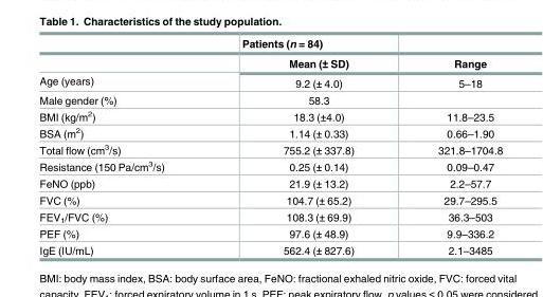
<table><thead><tr><td rowspan="2"></td><td rowspan="2">Patients (n = 84) Mean (± SD)</td><td rowspan="2">Range</td></tr><tr></tr></thead><tbody><tr><td>Age (years)</td><td>9.2 (± 4.0)</td><td>5–18</td></tr><tr><td>Male gender (%)</td><td>58.3</td><td></td></tr><tr><td>BMI (kg/m<sup>2</sup>)</td><td>18.3 (±4.0)</td><td>11.8–23.5</td></tr><tr><td>BSA (m<sup>2</sup>)</td><td>1.14 (± 0.33)</td><td>0.66–1.90</td></tr><tr><td>Total flow (cm<sup>3</sup>/s)</td><td>755.2 (± 337.8)</td><td>321.8–1704.8</td></tr><tr><td>Resistance (150 Pa/cm<sup>3</sup>/s)</td><td>0.25 (± 0.14)</td><td>0.09–0.47</td></tr><tr><td>FeNO (ppb)</td><td>21.9 (± 13.2)</td><td>2.2–57.7</td></tr><tr><td>FVC (%)</td><td>104.7 (± 65.2)</td><td>29.7–295.5</td></tr><tr><td>FEV<sub>1</sub>/FVC (%)</td><td>108.3 (± 69.9)</td><td>36.3–503</td></tr><tr><td>PEF (%)</td><td>97.6 (± 48.9)</td><td>9.9–336.2</td></tr><tr><td>IgE (IU/mL)</td><td>562.4 (± 827.6)</td><td>2.1–3485</td></tr></tbody></table>